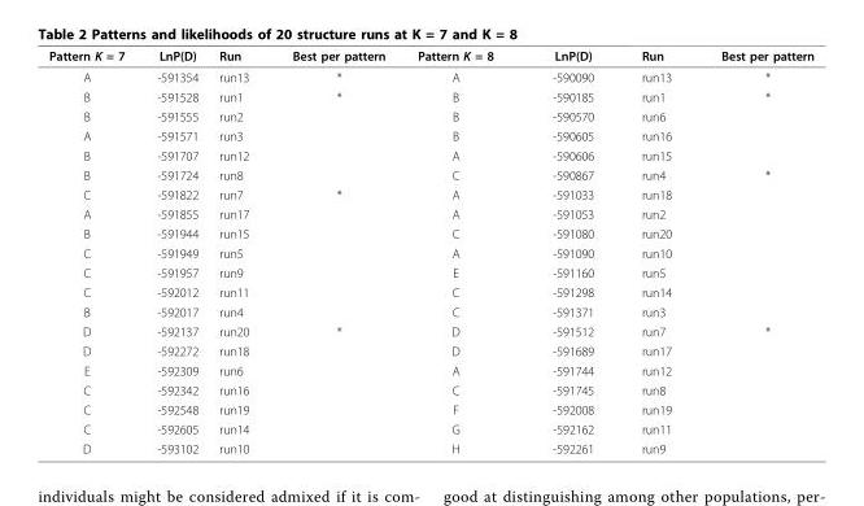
<table><thead><tr><td>Pattern K = 7</td><td>LnP(D)</td><td>Run</td><td>Best per pattern</td><td>Pattern K = 8</td><td>LnP(D)</td><td>Run</td><td>Best per pattern</td></tr></thead><tbody><tr><td>A</td><td>-591354</td><td>run13</td><td>*</td><td>A</td><td>-590090</td><td>run13</td><td>*</td></tr><tr><td>B</td><td>-591528</td><td>run1</td><td>*</td><td>B</td><td>-590185</td><td>run1</td><td>*</td></tr><tr><td>B</td><td>-591555</td><td>run2</td><td></td><td>B</td><td>-590570</td><td>run6</td><td></td></tr><tr><td>A</td><td>-591571</td><td>run3</td><td></td><td>B</td><td>-590605</td><td>run16</td><td></td></tr><tr><td>B</td><td>-591707</td><td>run12</td><td></td><td>A</td><td>-590606</td><td>run15</td><td></td></tr><tr><td>B</td><td>-591724</td><td>run8</td><td></td><td>C</td><td>-590867</td><td>run4</td><td>*</td></tr><tr><td>C</td><td>-591822</td><td>run7</td><td>*</td><td>A</td><td>-591033</td><td>run18</td><td></td></tr><tr><td>A</td><td>-591855</td><td>run17</td><td></td><td>A</td><td>-591053</td><td>run2</td><td></td></tr><tr><td>B</td><td>-591944</td><td>run15</td><td></td><td>C</td><td>-591080</td><td>run20</td><td></td></tr><tr><td>C</td><td>-591949</td><td>run5</td><td></td><td>A</td><td>-591090</td><td>run10</td><td></td></tr><tr><td>C</td><td>-591957</td><td>run9</td><td></td><td>E</td><td>-591160</td><td>run5</td><td></td></tr><tr><td>C</td><td>-592012</td><td>run11</td><td></td><td>C</td><td>-591298</td><td>run14</td><td></td></tr><tr><td>B</td><td>-592017</td><td>run4</td><td></td><td>C</td><td>-591371</td><td>run3</td><td></td></tr><tr><td>D</td><td>-592137</td><td>run20</td><td>*</td><td>D</td><td>-591512</td><td>run7</td><td>*</td></tr><tr><td>D</td><td>-592272</td><td>run18</td><td></td><td>D</td><td>-591689</td><td>run17</td><td></td></tr><tr><td>E</td><td>-592309</td><td>run6</td><td></td><td>A</td><td>-591744</td><td>run12</td><td></td></tr><tr><td>C</td><td>-592342</td><td>run16</td><td></td><td>C</td><td>-591745</td><td>run8</td><td></td></tr><tr><td>C</td><td>-592548</td><td>run19</td><td></td><td>F</td><td>-592008</td><td>run19</td><td></td></tr><tr><td>C</td><td>-592605</td><td>run14</td><td></td><td>G</td><td>-592162</td><td>run11</td><td></td></tr><tr><td>D</td><td>-593102</td><td>run10</td><td></td><td>H</td><td>-592261</td><td>run9</td><td></td></tr></tbody></table>